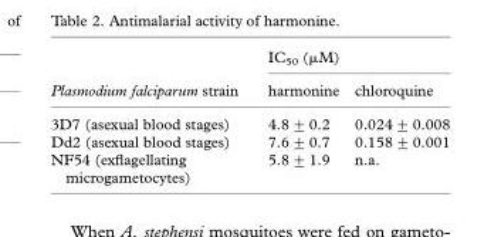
<table><thead><tr><td rowspan="2">Plasmodium falciparum strain</td><td colspan="2">IC<sub>50</sub> (µM)</td></tr><tr><td>harmonine</td><td>chloroquine</td></tr></thead><tbody><tr><td>3D7 (asexual blood stages)</td><td>4.8+0.2</td><td>0.024+0.008</td></tr><tr><td>Dd2 (asexual blood stages)</td><td>7.6+0.7</td><td>0.158+0.001</td></tr><tr><td>NF54 (exflagellating microgametocytes)</td><td>5.8+1.9</td><td>n.a.</td></tr></tbody></table>